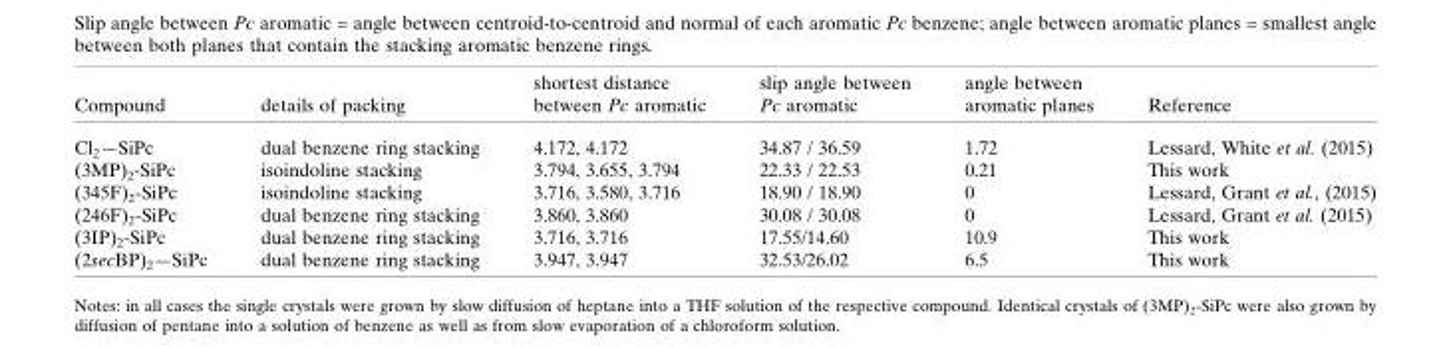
<table><thead><tr><td>Compound</td><td>details of packing</td><td>shortest distance between Pc aromatic</td><td>slip angle between Pc aromatic</td><td>angle between aromatic planes</td><td>Reference</td></tr></thead><tbody><tr><td>Cl<sub>2</sub>—SiPc</td><td>dual benzene ring stacking</td><td>4.172, 4.172</td><td>34.87 / 36.59</td><td>1.72</td><td>Lessard, White et al. (2015)</td></tr><tr><td>(3MP)<sub>2</sub>-SiPc</td><td>isoindoline stacking</td><td>3.794, 3.655, 3.794</td><td>22.33 / 22.53</td><td>0.21</td><td>This work</td></tr><tr><td>(345F)<sub>2</sub>-SiPc</td><td>isoindoline stacking</td><td>3.716, 3.580, 3.716</td><td>18.90 / 18.90</td><td>0</td><td>Lessard, Grant et al., (2015)</td></tr><tr><td>(246F)<sub>2</sub>-SiPc</td><td>dual benzene ring stacking</td><td>3.860, 3.860</td><td>30.08 / 30.08</td><td>0</td><td>Lessard, Grant et al. (2015)</td></tr><tr><td>(3IP)<sub>2</sub>-SiPc</td><td>dual benzene ring stacking</td><td>3.716, 3.716</td><td>17.55/14.60</td><td>10.9</td><td>This work</td></tr><tr><td>(2secBP)<sub>2</sub>—SiPc</td><td>dual benzene ring stacking</td><td>3.947, 3.947</td><td>32.53/26.02</td><td>6.5</td><td>This work</td></tr></tbody></table>